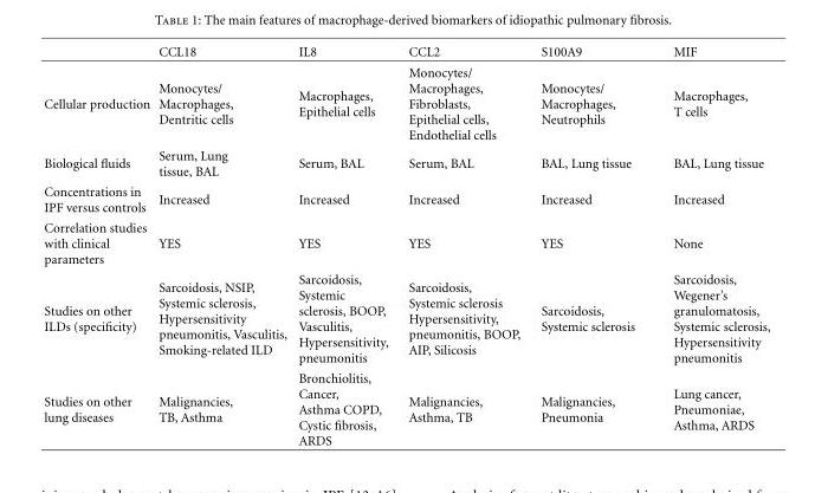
<table><thead><tr><td></td><td>CCL18</td><td>IL8</td><td>CCL2</td><td>S100A9</td><td>MIF</td></tr></thead><tbody><tr><td>Cellular production</td><td>Monocytes/ Macrophages, Dentritic cells</td><td>Macrophages, Epithelial cells</td><td>Monocytes/ Macrophages, Fibroblasts, Epithelial cells, Endothelial cells</td><td>Monocytes/ Macrophages, Neutrophils</td><td>Macrophages, T cells</td></tr><tr><td>Biological fluids</td><td>Serum, Lung tissue, BAL</td><td>Serum, BAL</td><td>Serum, BAL</td><td>BAL, Lung tissue</td><td>BAL, Lung tissue</td></tr><tr><td>Concentrations in IPF versus controls</td><td>Increased</td><td>Increased</td><td>Increased</td><td>Increased</td><td>Increased</td></tr><tr><td>Correlation studies with clinical parameters</td><td>YES</td><td>YES</td><td>YES</td><td>YES</td><td>None</td></tr><tr><td>Studies on other ILDs (specificity)</td><td>Sarcoidosis, NSIP, Systemic sclerosis, Hypersensitivity pneumonitis, Vasculitis, Smoking-related ILD</td><td>Sarcoidosis, Systemic sclerosis, BOOP, Vasculitis, Hypersensitivity, pneumonitis</td><td>Sarcoidosis, Systemic sclerosis Hypersensitivity, pneumonitis, BOOP, AIP, Silicosis</td><td>Sarcoidosis, Systemic sclerosis</td><td>Sarcoidosis, Wegener’s granulomatosis, Systemic sclerosis, Hypersensitivity pneumonitis</td></tr><tr><td>Studies on other lung diseases</td><td>Malignancies, TB, Asthma</td><td>Bronchiolitis, Cancer, Asthma COPD, Cystic fibrosis, ARDS</td><td>Malignancies, Asthma, TB</td><td>Malignancies, Pneumonia</td><td>Lung cancer, Pneumoniae, Asthma, ARDS</td></tr></tbody></table>